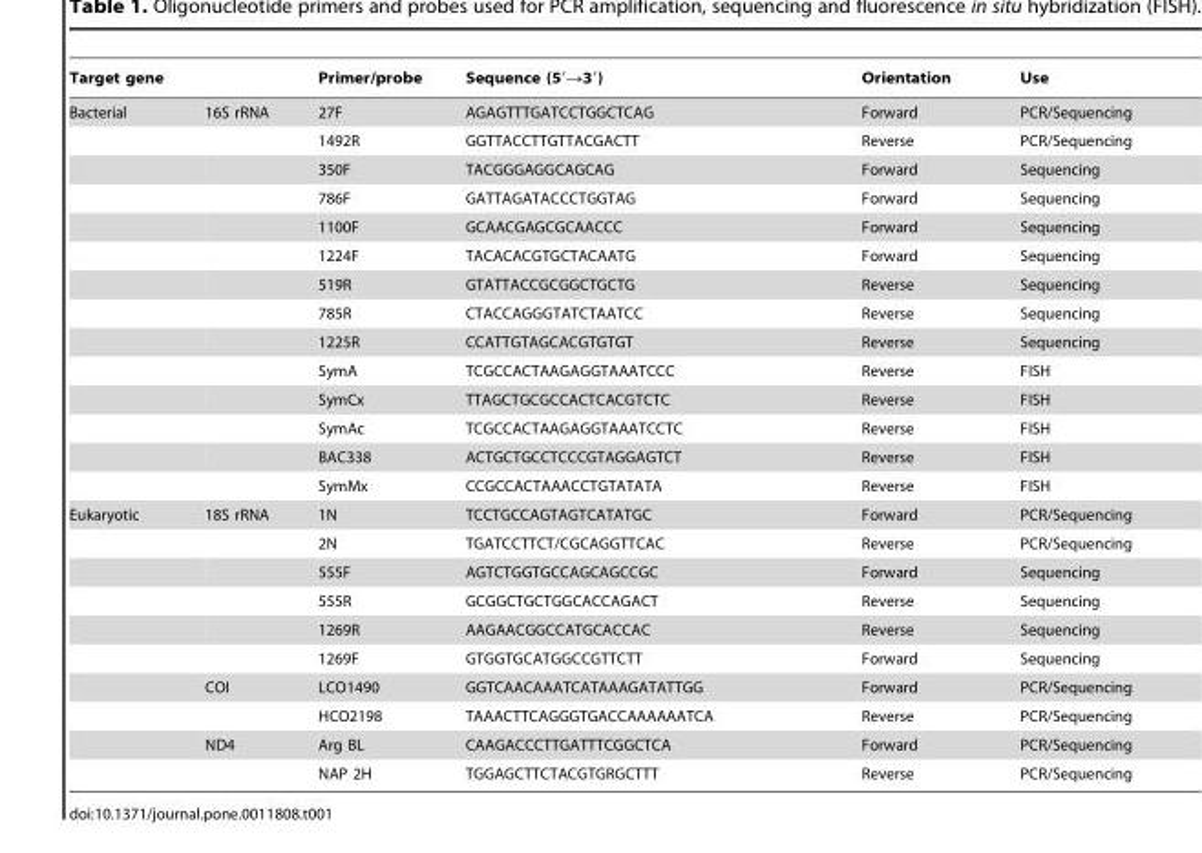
<table><thead><tr><td colspan="2">Target gene</td><td rowspan="2">Primer/probe 27F</td><td rowspan="2">Sequence (5′→3′) AGAGTTTGATCCTGGCTCAG</td><td rowspan="2">Orientation Forward</td><td rowspan="2">Use PCR/Sequencing</td></tr><tr><td>Bacterial</td><td>16S rRNA</td></tr></thead><tbody><tr><td></td><td></td><td>1492R</td><td>GGTTACCTTGTTACGACTT</td><td>Reverse</td><td>PCR/Sequencing</td></tr><tr><td></td><td></td><td>350F</td><td>TACGGGAGGCAGCAG</td><td>Forward</td><td>Sequencing</td></tr><tr><td></td><td></td><td>786F</td><td>GATTAGATACCCTGGTAG</td><td>Forward</td><td>Sequencing</td></tr><tr><td></td><td></td><td>1100F</td><td>GCAACGAGCGCAACCC</td><td>Forward</td><td>Sequencing</td></tr><tr><td></td><td></td><td>1224F</td><td>TACACACGTGCTACAATG</td><td>Forward</td><td>Sequencing</td></tr><tr><td></td><td></td><td>519R</td><td>GTATTACCGCGGCTGCTG</td><td>Reverse</td><td>Sequencing</td></tr><tr><td></td><td></td><td>785R</td><td>CTACCAGGGTATCTAATCC</td><td>Reverse</td><td>Sequencing</td></tr><tr><td></td><td></td><td>1225R</td><td>CCATTGTAGCACGTGTGT</td><td>Reverse</td><td>Sequencing</td></tr><tr><td></td><td></td><td>SymA</td><td>TCGCCACTAAGAGGTAAATCCC</td><td>Reverse</td><td>FISH</td></tr><tr><td></td><td></td><td>SymCx</td><td>TTAGCTGCGCCACTCACGTCTC</td><td>Reverse</td><td>FISH</td></tr><tr><td></td><td></td><td>SymAc</td><td>TCGCCACTAAGAGGTAAATCCTC</td><td>Reverse</td><td>FISH</td></tr><tr><td></td><td></td><td>BAC338</td><td>ACTGCTGCCTCCCGTAGGAGTCT</td><td>Reverse</td><td>FISH</td></tr><tr><td></td><td></td><td>SymMx</td><td>CCGCCACTAAACCTGTATATA</td><td>Reverse</td><td>FISH</td></tr><tr><td rowspan="10">Eukaryotic</td><td>18S rRNA</td><td>1N</td><td>TCCTGCCAGTAGTCATATGC</td><td>Forward</td><td>PCR/Sequencing</td></tr><tr><td></td><td>2N</td><td>TGATCCTTCT/CGCAGGTTCAC</td><td>Reverse</td><td>PCR/Sequencing</td></tr><tr><td></td><td>555F</td><td>AGTCTGGTGCCAGCAGCCGC</td><td>Forward</td><td>Sequencing</td></tr><tr><td></td><td>555R</td><td>GCGGCTGCTGGCACCAGACT</td><td>Reverse</td><td>Sequencing</td></tr><tr><td></td><td>1269R</td><td>AAGAACGGCCATGCACCAC</td><td>Reverse</td><td>Sequencing</td></tr><tr><td></td><td>1269F</td><td>GTGGTGCATGGCCGTTCTT</td><td>Forward</td><td>Sequencing</td></tr><tr><td>COI</td><td>LCO1490</td><td>GGTCAACAAATCATAAAGATATTGG</td><td>Forward</td><td>PCR/Sequencing</td></tr><tr><td></td><td>HCO2198</td><td>TAAACTTCAGGGTGACCAAAAAATCA</td><td>Reverse</td><td>PCR/Sequencing</td></tr><tr><td>ND4</td><td>Arg BL</td><td>CAAGACCCTTGATTTCGGCTCA</td><td>Forward</td><td>PCR/Sequencing</td></tr><tr><td></td><td>NAP 2H</td><td>TGGAGCTTCTACGTGRGCTTT</td><td>Reverse</td><td>PCR/Sequencing</td></tr></tbody></table>